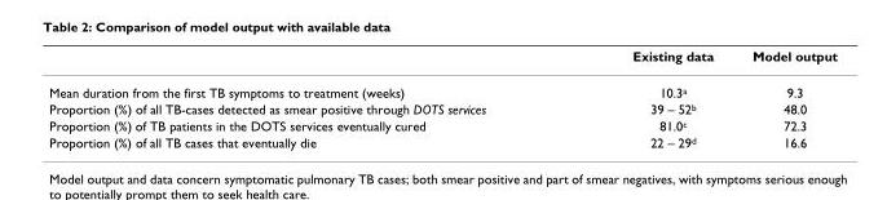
<table><thead><tr><td></td><td>Existing data</td><td>Model output</td></tr></thead><tbody><tr><td>Mean duration from the first TB symptoms to treatment (weeks)</td><td>10.3<sup>a</sup></td><td>9.3</td></tr><tr><td>Proportion (%) of all TB-cases detected as smear positive through DOTS services</td><td>39 – 52<sup>b</sup></td><td>48.0</td></tr><tr><td>Proportion (%) of TB patients in the DOTS services eventually cured</td><td>81.0<sup>c</sup></td><td>72.3</td></tr><tr><td>Proportion (%) of all TB cases that eventually die</td><td>22 – 29<sup>d</sup></td><td>16.6</td></tr></tbody></table>